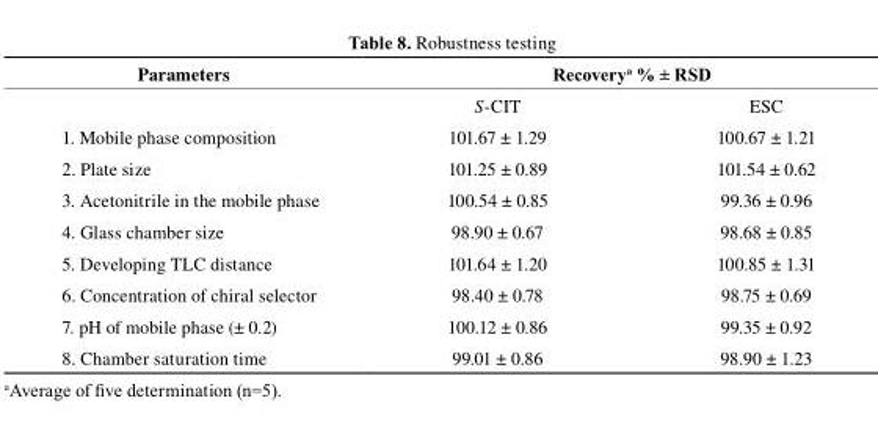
<table><thead><tr><td rowspan="2">Parameters</td><td colspan="2">Recovery<sup>a</sup> % ± RSD</td></tr><tr><td>S-CIT</td><td>ESC</td></tr></thead><tbody><tr><td>1. Mobile phase composition</td><td>101.67 ± 1.29</td><td>100.67 ± 1.21</td></tr><tr><td>2. Plate size</td><td>101.25 ± 0.89</td><td>101.54 ± 0.62</td></tr><tr><td>3. Acetonitrile in the mobile phase</td><td>100.54 ± 0.85</td><td>99.36 ± 0.96</td></tr><tr><td>4. Glass chamber size</td><td>98.90 ± 0.67</td><td>98.68 ± 0.85</td></tr><tr><td>5. Developing TLC distance</td><td>101.64 ± 1.20</td><td>100.85 ± 1.31</td></tr><tr><td>6. Concentration of chiral selector</td><td>98.40 ± 0.78</td><td>98.75 ± 0.69</td></tr><tr><td>7. pH of mobile phase (± 0.2)</td><td>100.12 ± 0.86</td><td>99.35 ± 0.92</td></tr><tr><td>8. Chamber saturation time</td><td>99.01 ± 0.86</td><td>98.90 ± 1.23</td></tr></tbody></table>